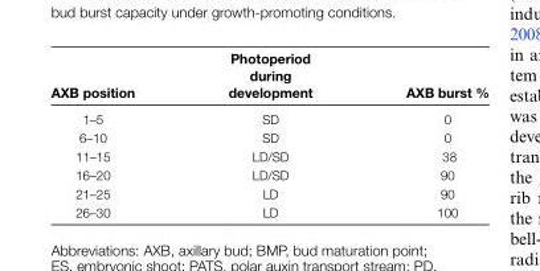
<table><thead><tr><td>AXB position</td><td>Photoperiod during development</td><td>AXB burst %</td></tr></thead><tbody><tr><td>1–5</td><td>SD</td><td>0</td></tr><tr><td>6–10</td><td>SD</td><td>0</td></tr><tr><td>11–15</td><td>LD/SD</td><td>38</td></tr><tr><td>16–20</td><td>LD/SD</td><td>90</td></tr><tr><td>21–25</td><td>LD</td><td>90</td></tr><tr><td>26–30</td><td>LD</td><td>100</td></tr></tbody></table>